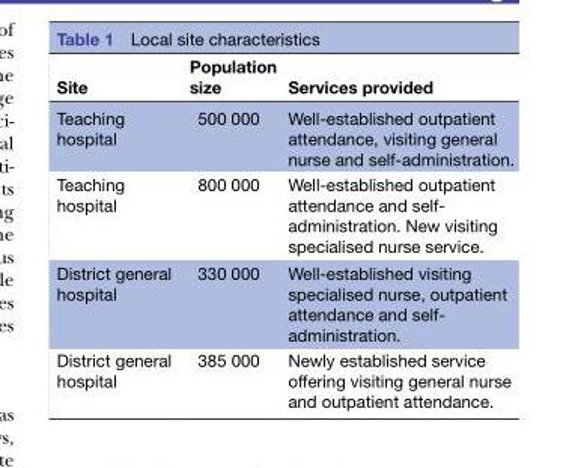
<table><thead><tr><td>Site</td><td>Population size</td><td>Services provided</td></tr></thead><tbody><tr><td>Teaching hospital</td><td>500 000</td><td>Well-established outpatient attendance, visiting general nurse and self-administration.</td></tr><tr><td>Teaching hospital</td><td>800 000</td><td>Well-established outpatient attendance and self- administration. New visiting specialised nurse service.</td></tr><tr><td>District general hospital</td><td>330 000</td><td>Well-established visiting specialised nurse, outpatient attendance and self- administration.</td></tr><tr><td>District general hospital</td><td>385 000</td><td>Newly established service offering visiting general nurse and outpatient attendance.</td></tr></tbody></table>